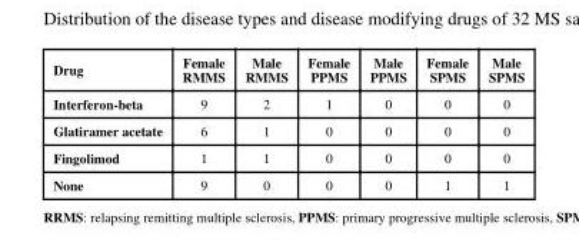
<table><thead><tr><td>Drug</td><td>Female RMMS</td><td>Male RMMS</td><td>Female PPMS</td><td>Male PPMS</td><td>Female SPMS</td><td>Male SPMS</td></tr></thead><tbody><tr><td>Interferon-beta</td><td>9</td><td>2</td><td>1</td><td>0</td><td>0</td><td>0</td></tr><tr><td>Glatiramer acetate</td><td>6</td><td>1</td><td>0</td><td>0</td><td>0</td><td>0</td></tr><tr><td>Fingolimod</td><td>1</td><td>1</td><td>0</td><td>0</td><td>0</td><td>0</td></tr><tr><td>None</td><td>9</td><td>0</td><td>0</td><td>0</td><td>1</td><td>1</td></tr></tbody></table>